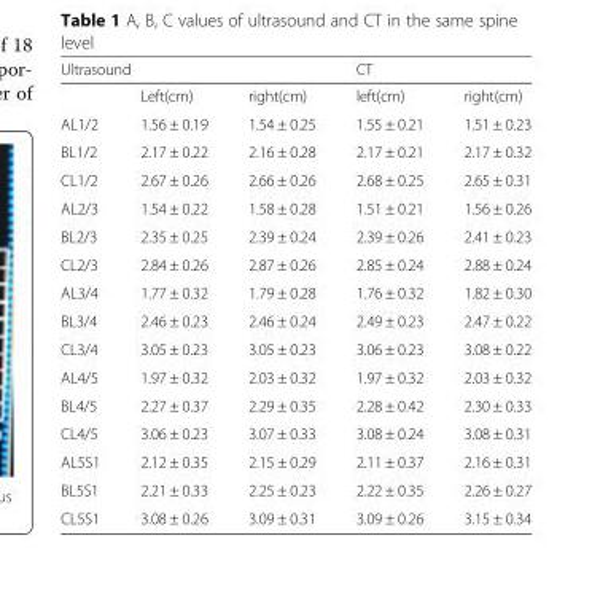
<table><thead><tr><td colspan="3">Ultrasound</td><td colspan="2">CT</td></tr><tr><td></td><td>Left(cm)</td><td>right(cm)</td><td>left(cm)</td><td>right(cm)</td></tr></thead><tbody><tr><td>AL1/2</td><td>1.56 ± 0.19</td><td>1.54 ± 0.25</td><td>1.55 ± 0.21</td><td>1.51 ± 0.23</td></tr><tr><td>BL1/2</td><td>2.17 ± 0.22</td><td>2.16 ± 0.28</td><td>2.17 ± 0.21</td><td>2.17 ± 0.32</td></tr><tr><td>CL1/2</td><td>2.67 ± 0.26</td><td>2.66 ± 0.26</td><td>2.68 ± 0.25</td><td>2.65 ± 0.31</td></tr><tr><td>AL2/3</td><td>1.54 ± 0.22</td><td>1.58 ± 0.28</td><td>1.51 ± 0.21</td><td>1.56 ± 0.26</td></tr><tr><td>BL2/3</td><td>2.35 ± 0.25</td><td>2.39 ± 0.24</td><td>2.39 ± 0.26</td><td>2.41 ± 0.23</td></tr><tr><td>CL2/3</td><td>2.84 ± 0.26</td><td>2.87 ± 0.26</td><td>2.85 ± 0.24</td><td>2.88 ± 0.24</td></tr><tr><td>AL3/4</td><td>1.77 ± 0.32</td><td>1.79 ± 0.28</td><td>1.76 ± 0.32</td><td>1.82 ± 0.30</td></tr><tr><td>BL3/4</td><td>2.46 ± 0.23</td><td>2.46 ± 0.24</td><td>2.49 ± 0.23</td><td>2.47 ± 0.22</td></tr><tr><td>CL3/4</td><td>3.05 ± 0.23</td><td>3.05 ± 0.23</td><td>3.06 ± 0.23</td><td>3.08 ± 0.22</td></tr><tr><td>AL4/5</td><td>1.97 ± 0.32</td><td>2.03 ± 0.32</td><td>1.97 ± 0.32</td><td>2.03 ± 0.32</td></tr><tr><td>BL4/5</td><td>2.27 ± 0.37</td><td>2.29 ± 0.35</td><td>2.28 ± 0.42</td><td>2.30 ± 0.33</td></tr><tr><td>CL4/5</td><td>3.06 ± 0.23</td><td>3.07 ± 0.33</td><td>3.08 ± 0.24</td><td>3.08 ± 0.31</td></tr><tr><td>AL5S1</td><td>2.12 ± 0.35</td><td>2.15 ± 0.29</td><td>2.11 ± 0.37</td><td>2.16 ± 0.31</td></tr><tr><td>BL5S1</td><td>2.21 ± 0.33</td><td>2.25 ± 0.23</td><td>2.22 ± 0.35</td><td>2.26 ± 0.27</td></tr><tr><td>CL5S1</td><td>3.08 ± 0.26</td><td>3.09 ± 0.31</td><td>3.09 ± 0.26</td><td>3.15 ± 0.34</td></tr></tbody></table>